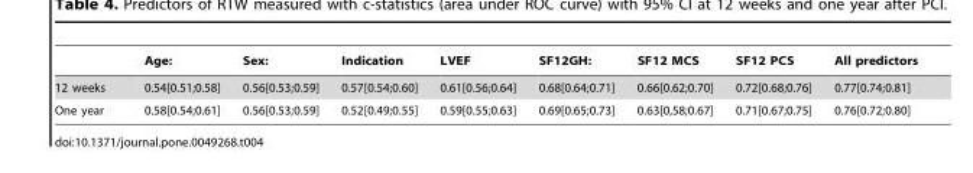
<table><thead><tr><td></td><td>Age:</td><td>Sex:</td><td>Indication</td><td>LVEF</td><td>SF12GH:</td><td>SF12 MCS</td><td>SF12 PCS</td><td>All predictors</td></tr></thead><tbody><tr><td>12 weeks</td><td>0.54[0.51;0.58]</td><td>0.56[0.53;0.59]</td><td>0.57[0.54;0.60]</td><td>0.61[0.56;0.64]</td><td>0.68[0.64;0.71]</td><td>0.66[0.62;0.70]</td><td>0.72[0.68;0.76]</td><td>0.77[0.74;0.81]</td></tr><tr><td>One year</td><td>0.58[0.54;0.61]</td><td>0.56[0.53;0.59]</td><td>0.52[0.49;0.55]</td><td>0.59[0.55;0.63]</td><td>0.69[0.65;0.73]</td><td>0.63[0,58;0.67]</td><td>0.71[0.67;0.75]</td><td>0.76[0.72;0.80]</td></tr></tbody></table>